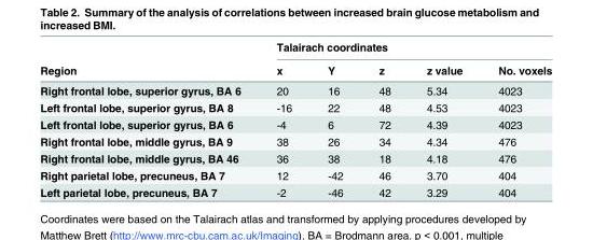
<table><thead><tr><td rowspan="2">Region</td><td colspan="5">Talairach coordinates</td></tr><tr><td>x</td><td>Y</td><td>z</td><td>z value</td><td>No. voxels</td></tr></thead><tbody><tr><td>Right frontal lobe, superior gyrus, BA 6</td><td>20</td><td>16</td><td>48</td><td>5.34</td><td>4023</td></tr><tr><td>Left frontal lobe, superior gyrus, BA 8</td><td>-16</td><td>22</td><td>48</td><td>4.53</td><td>4023</td></tr><tr><td>Left frontal lobe, superior gyrus, BA 6</td><td>-4</td><td>6</td><td>72</td><td>4.39</td><td>4023</td></tr><tr><td>Right frontal lobe, middle gyrus, BA 9</td><td>38</td><td>26</td><td>34</td><td>4.34</td><td>476</td></tr><tr><td>Right frontal lobe, middle gyrus, BA 46</td><td>36</td><td>38</td><td>18</td><td>4.18</td><td>476</td></tr><tr><td>Right parietal lobe, precuneus, BA 7</td><td>12</td><td>-42</td><td>46</td><td>3.70</td><td>404</td></tr><tr><td>Left parietal lobe, precuneus, BA 7</td><td>-2</td><td>-46</td><td>42</td><td>3.29</td><td>404</td></tr></tbody></table>